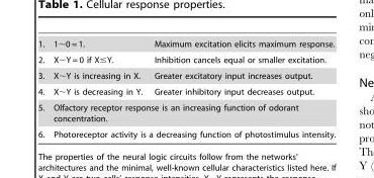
<table><tbody><tr><td>1. 1∼0 = 1.</td><td>Maximum excitation elicits maximum response.</td></tr><tr><td>2. X∼Y = 0 if X≤Y.</td><td>Inhibition cancels equal or smaller excitation.</td></tr><tr><td>3. X∼Y is increasing in X.</td><td>Greater excitatory input increases output.</td></tr><tr><td>4. X∼Y is decreasing in Y.</td><td>Greater inhibitory input decreases output.</td></tr><tr><td colspan="2">5. Olfactory receptor response is an increasing function of odorant concentration.</td></tr><tr><td colspan="2">6. Photoreceptor activity is a decreasing function of photostimulus intensity.</td></tr></tbody></table>